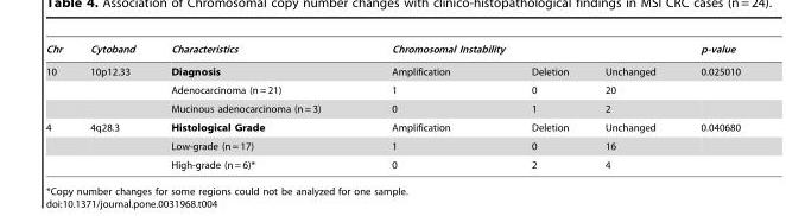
<table><thead><tr><td rowspan="2">Chr 10</td><td rowspan="2">Cytoband 10p12.33</td><td rowspan="2">Characteristics Diagnosis</td><td colspan="2">Chromosomal Instability</td><td rowspan="2">Unchanged</td><td rowspan="2">p-value 0.025010</td></tr><tr><td>Amplification</td><td>Deletion</td></tr></thead><tbody><tr><td></td><td></td><td>Adenocarcinoma (n = 21)</td><td>1</td><td>0</td><td>20</td><td></td></tr><tr><td></td><td></td><td>Mucinous adenocarcinoma (n = 3)</td><td>0</td><td>1</td><td>2</td><td></td></tr><tr><td rowspan="3">4</td><td>4q28.3</td><td>Histological Grade</td><td>Amplification</td><td>Deletion</td><td>Unchanged</td><td>0.040680</td></tr><tr><td></td><td>Low-grade (n = 17)</td><td>1</td><td>0</td><td>16</td><td></td></tr><tr><td></td><td>High-grade (n = 6)*</td><td>0</td><td>2</td><td>4</td><td></td></tr></tbody></table>